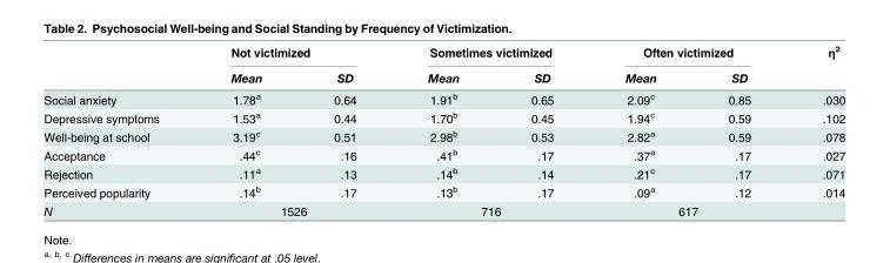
<table><thead><tr><td rowspan="2"></td><td colspan="2">Not victimized</td><td colspan="2">Sometimes victimized</td><td colspan="2">Often victimized</td><td rowspan="2">η<sup>2</sup></td></tr><tr><td>Mean</td><td>SD</td><td>Mean</td><td>SD</td><td>Mean</td><td>SD</td></tr></thead><tbody><tr><td>Social anxiety</td><td>1.78<sup>a</sup></td><td>0.64</td><td>1.91<sup>b</sup></td><td>0.65</td><td>2.09<sup>c</sup></td><td>0.85</td><td>.030</td></tr><tr><td>Depressive symptoms</td><td>1.53<sup>a</sup></td><td>0.44</td><td>1.70<sup>b</sup></td><td>0.45</td><td>1.94<sup>c</sup></td><td>0.59</td><td>.102</td></tr><tr><td>Well-being at school</td><td>3.19<sup>c</sup></td><td>0.51</td><td>2.98<sup>b</sup></td><td>0.53</td><td>2.82<sup>a</sup></td><td>0.59</td><td>.078</td></tr><tr><td>Acceptance</td><td>.44<sup>c</sup></td><td>.16</td><td>.41<sup>b</sup></td><td>.17</td><td>.37<sup>a</sup></td><td>.17</td><td>.027</td></tr><tr><td>Rejection</td><td>.11<sup>a</sup></td><td>.13</td><td>.14<sup>b</sup></td><td>.14</td><td>.21<sup>c</sup></td><td>.17</td><td>.071</td></tr><tr><td>Perceived popularity</td><td>.14<sup>b</sup></td><td>.17</td><td>.13<sup>b</sup></td><td>.17</td><td>.09<sup>a</sup></td><td>.12</td><td>.014</td></tr><tr><td>N</td><td colspan="2">1526</td><td colspan="2">716</td><td colspan="2">617</td><td></td></tr></tbody></table>